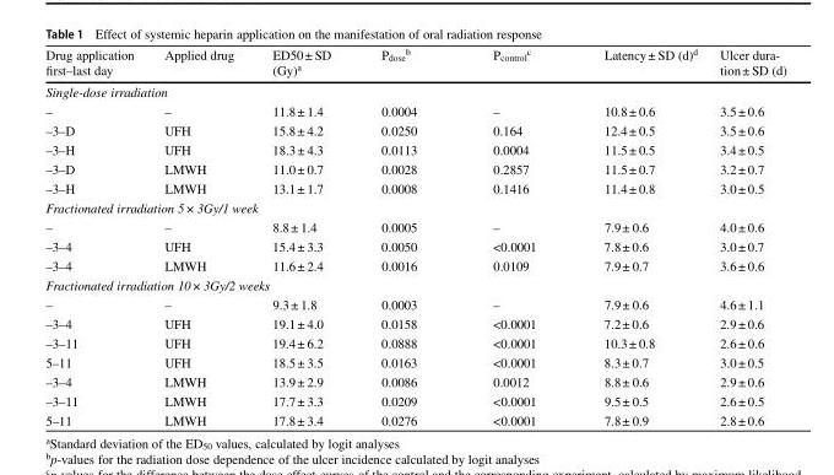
<table><thead><tr><td>Drug application first–last day</td><td>Applied drug</td><td>ED50± SD (Gy)<sup>a</sup></td><td>P<sub>dose</sub><sup>b</sup></td><td>P<sub>control</sub><sup>c</sup></td><td>Latency± SD (d)<sup>d</sup></td><td>Ulcer dura- tion± SD (d)</td></tr></thead><tbody><tr><td colspan="7">Single-dose irradiation</td></tr><tr><td>–</td><td>–</td><td>11.8± 1.4</td><td>0.0004</td><td>–</td><td>10.8± 0.6</td><td>3.5± 0.6</td></tr><tr><td>–3–D</td><td>UFH</td><td>15.8± 4.2</td><td>0.0250</td><td>0.164</td><td>12.4± 0.5</td><td>3.5± 0.6</td></tr><tr><td>–3–H</td><td>UFH</td><td>18.3± 4.3</td><td>0.0113</td><td>0.0004</td><td>11.5± 0.5</td><td>3.4± 0.5</td></tr><tr><td>–3–D</td><td>LMWH</td><td>11.0± 0.7</td><td>0.0028</td><td>0.2857</td><td>11.5± 0.7</td><td>3.2± 0.7</td></tr><tr><td>–3–H</td><td>LMWH</td><td>13.1± 1.7</td><td>0.0008</td><td>0.1416</td><td>11.4± 0.8</td><td>3.0± 0.5</td></tr><tr><td colspan="7">Fractionated irradiation 5× 3Gy/1 week</td></tr><tr><td>–</td><td>–</td><td>8.8± 1.4</td><td>0.0005</td><td>–</td><td>7.9± 0.6</td><td>4.0± 0.6</td></tr><tr><td>–3–4</td><td>UFH</td><td>15.4± 3.3</td><td>0.0050</td><td>&lt;0.0001</td><td>7.8± 0.6</td><td>3.0± 0.7</td></tr><tr><td>–3–4</td><td>LMWH</td><td>11.6± 2.4</td><td>0.0016</td><td>0.0109</td><td>7.9± 0.7</td><td>3.6± 0.6</td></tr><tr><td colspan="7">Fractionated irradiation 10× 3Gy/2 weeks</td></tr><tr><td>–</td><td>–</td><td>9.3± 1.8</td><td>0.0003</td><td>–</td><td>7.9± 0.6</td><td>4.6± 1.1</td></tr><tr><td>–3–4</td><td>UFH</td><td>19.1± 4.0</td><td>0.0158</td><td>&lt;0.0001</td><td>7.2± 0.6</td><td>2.9± 0.6</td></tr><tr><td>–3–11</td><td>UFH</td><td>19.4± 6.2</td><td>0.0888</td><td>&lt;0.0001</td><td>10.3± 0.8</td><td>2.6± 0.6</td></tr><tr><td>5–11</td><td>UFH</td><td>18.5± 3.5</td><td>0.0163</td><td>&lt;0.0001</td><td>8.3± 0.7</td><td>3.0± 0.5</td></tr><tr><td>–3–4</td><td>LMWH</td><td>13.9± 2.9</td><td>0.0086</td><td>0.0012</td><td>8.8± 0.6</td><td>2.9± 0.6</td></tr><tr><td>–3–11</td><td>LMWH</td><td>17.7± 3.3</td><td>0.0209</td><td>&lt;0.0001</td><td>9.5± 0.5</td><td>2.6± 0.5</td></tr><tr><td>5–11</td><td>LMWH</td><td>17.8± 3.4</td><td>0.0276</td><td>&lt;0.0001</td><td>7.8± 0.9</td><td>2.8± 0.6</td></tr></tbody></table>